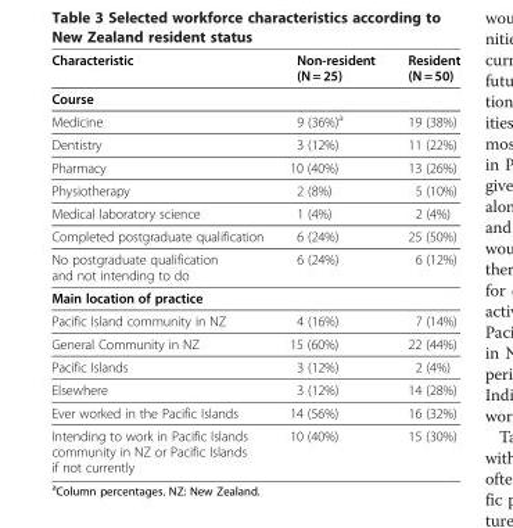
<table><thead><tr><td>Characteristic</td><td>Non-resident (N = 25)</td><td>Resident (N = 50)</td></tr></thead><tbody><tr><td colspan="3">Course</td></tr><tr><td>Medicine</td><td>9 (36%)<sup>a</sup></td><td>19 (38%)</td></tr><tr><td>Dentistry</td><td>3 (12%)</td><td>11 (22%)</td></tr><tr><td>Pharmacy</td><td>10 (40%)</td><td>13 (26%)</td></tr><tr><td>Physiotherapy</td><td>2 (8%)</td><td>5 (10%)</td></tr><tr><td>Medical laboratory science</td><td>1 (4%)</td><td>2 (4%)</td></tr><tr><td>Completed postgraduate qualification</td><td>6 (24%)</td><td>25 (50%)</td></tr><tr><td>No postgraduate qualification and not intending to do</td><td>6 (24%)</td><td>6 (12%)</td></tr><tr><td colspan="3">Main location of practice</td></tr><tr><td>Pacific Island community in NZ</td><td>4 (16%)</td><td>7 (14%)</td></tr><tr><td>General Community in NZ</td><td>15 (60%)</td><td>22 (44%)</td></tr><tr><td>Pacific Islands</td><td>3 (12%)</td><td>2 (4%)</td></tr><tr><td>Elsewhere</td><td>3 (12%)</td><td>14 (28%)</td></tr><tr><td>Ever worked in the Pacific Islands</td><td>14 (56%)</td><td>16 (32%)</td></tr><tr><td>Intending to work in Pacific Islands community in NZ or Pacific Islands if not currently</td><td>10 (40%)</td><td>15 (30%)</td></tr></tbody></table>